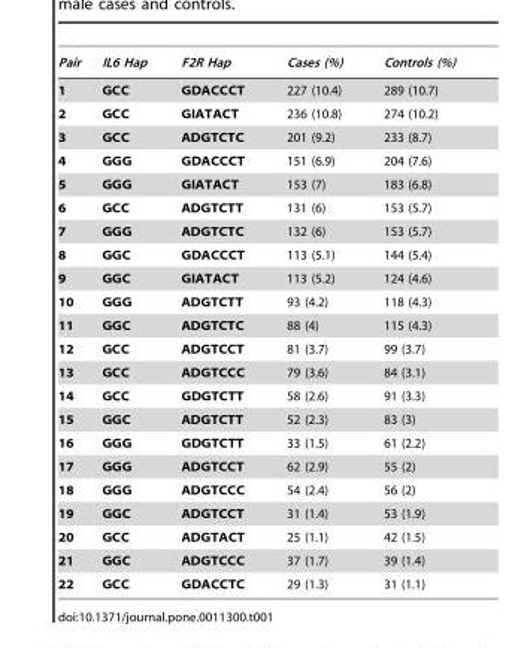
<table><thead><tr><td>Pair</td><td>IL6 Hap</td><td>F2R Hap</td><td>Cases (%)</td><td>Controls (%)</td></tr></thead><tbody><tr><td>1</td><td>GCC</td><td>GDACCCT</td><td>227 (10.4)</td><td>289 (10.7)</td></tr><tr><td>2</td><td>GCC</td><td>GIATACT</td><td>236 (10.8)</td><td>274 (10.2)</td></tr><tr><td>3</td><td>GCC</td><td>ADGTCTC</td><td>201 (9.2)</td><td>233 (8.7)</td></tr><tr><td>4</td><td>GGG</td><td>GDACCCT</td><td>151 (6.9)</td><td>204 (7.6)</td></tr><tr><td>5</td><td>GGG</td><td>GIATACT</td><td>153 (7)</td><td>183 (6.8)</td></tr><tr><td>6</td><td>GCC</td><td>ADGTCTT</td><td>131 (6)</td><td>153 (5.7)</td></tr><tr><td>7</td><td>GGG</td><td>ADGTCTC</td><td>132 (6)</td><td>153 (5.7)</td></tr><tr><td>8</td><td>GGC</td><td>GDACCCT</td><td>113 (5.1)</td><td>144 (5.4)</td></tr><tr><td>9</td><td>GGC</td><td>GIATACT</td><td>113 (5.2)</td><td>124 (4.6)</td></tr><tr><td>10</td><td>GGG</td><td>ADGTCTT</td><td>93 (4.2)</td><td>118 (4.3)</td></tr><tr><td>11</td><td>GGC</td><td>ADGTCTC</td><td>88 (4)</td><td>115 (4.3)</td></tr><tr><td>12</td><td>GCC</td><td>ADGTCCT</td><td>81 (3.7)</td><td>99 (3.7)</td></tr><tr><td>13</td><td>GCC</td><td>ADGTCCC</td><td>79 (3.6)</td><td>84 (3.1)</td></tr><tr><td>14</td><td>GCC</td><td>GDGTCTT</td><td>58 (2.6)</td><td>91 (3.3)</td></tr><tr><td>15</td><td>GGC</td><td>ADGTCTT</td><td>52 (2.3)</td><td>83 (3)</td></tr><tr><td>16</td><td>GGG</td><td>GDGTCTT</td><td>33 (1.5)</td><td>61 (2.2)</td></tr><tr><td>17</td><td>GGG</td><td>ADGTCCT</td><td>62 (2.9)</td><td>55 (2)</td></tr><tr><td>18</td><td>GGG</td><td>ADGTCCC</td><td>54 (2.4)</td><td>56 (2)</td></tr><tr><td>19</td><td>GGC</td><td>ADGTCCT</td><td>31 (1.4)</td><td>53 (1.9)</td></tr><tr><td>20</td><td>GCC</td><td>ADGTACT</td><td>25 (1.1)</td><td>42 (1.5)</td></tr><tr><td>21</td><td>GGC</td><td>ADGTCCC</td><td>37 (1.7)</td><td>39 (1.4)</td></tr><tr><td>22</td><td>GCC</td><td>GDACCTC</td><td>29 (1.3)</td><td>31 (1.1)</td></tr></tbody></table>